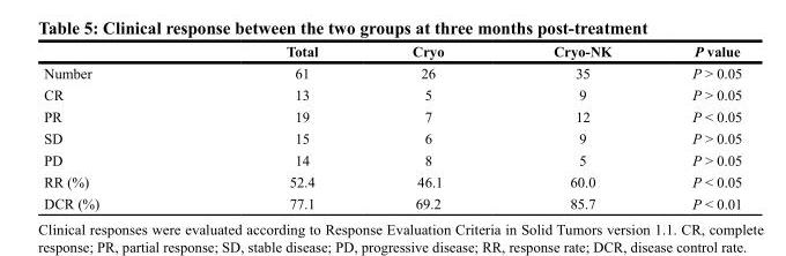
<table><thead><tr><td></td><td>Total</td><td>Cryo</td><td>Cryo-NK</td><td>P value</td></tr></thead><tbody><tr><td>Number</td><td>61</td><td>26</td><td>35</td><td>P &gt; 0.05</td></tr><tr><td>CR</td><td>13</td><td>5</td><td>9</td><td>P &gt; 0.05</td></tr><tr><td>PR</td><td>19</td><td>7</td><td>12</td><td>P &lt; 0.05</td></tr><tr><td>SD</td><td>15</td><td>6</td><td>9</td><td>P &gt; 0.05</td></tr><tr><td>PD</td><td>14</td><td>8</td><td>5</td><td>P &gt; 0.05</td></tr><tr><td>RR (%)</td><td>52.4</td><td>46.1</td><td>60.0</td><td>P &lt; 0.05</td></tr><tr><td>DCR (%)</td><td>77.1</td><td>69.2</td><td>85.7</td><td>P &lt; 0.01</td></tr></tbody></table>